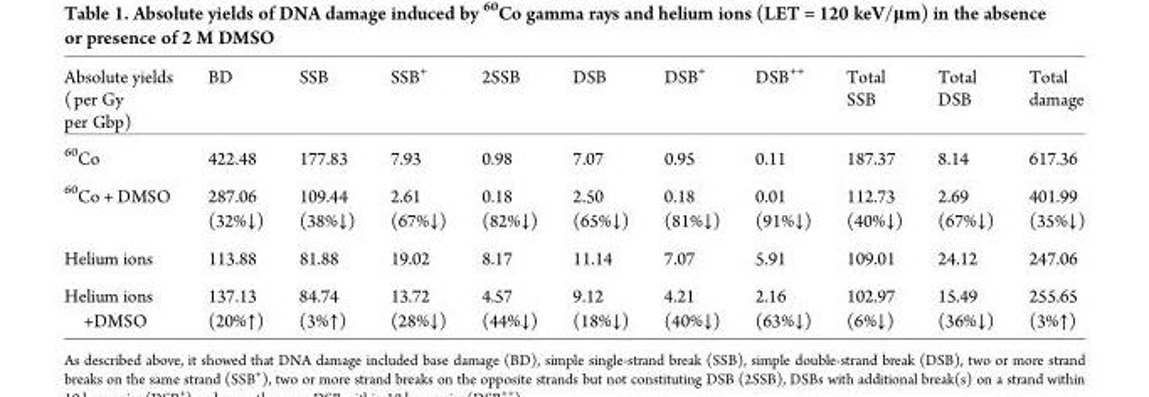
<table><thead><tr><td>Absolute yields (per Gy per Gbp)</td><td>BD</td><td>SSB</td><td>SSB<sup>+</sup></td><td>2SSB</td><td>DSB</td><td>DSB<sup>+</sup></td><td>DSB<sup>++</sup></td><td>Total SSB</td><td>Total DSB</td><td>Total damage</td></tr></thead><tbody><tr><td><sup>60</sup>Co</td><td>422.48</td><td>177.83</td><td>7.93</td><td>0.98</td><td>7.07</td><td>0.95</td><td>0.11</td><td>187.37</td><td>8.14</td><td>617.36</td></tr><tr><td><sup>60</sup>Co + DMSO</td><td>287.06 (32%↓)</td><td>109.44 (38%↓)</td><td>2.61 (67%↓)</td><td>0.18 (82%↓)</td><td>2.50 (65%↓)</td><td>0.18 (81%↓)</td><td>0.01 (91%↓)</td><td>112.73 (40%↓)</td><td>2.69 (67%↓)</td><td>401.99 (35%↓)</td></tr><tr><td>Helium ions</td><td>113.88</td><td>81.88</td><td>19.02</td><td>8.17</td><td>11.14</td><td>7.07</td><td>5.91</td><td>109.01</td><td>24.12</td><td>247.06</td></tr><tr><td>Helium ions +DMSO</td><td>137.13 (20%↑)</td><td>84.74 (3%↑)</td><td>13.72 (28%↓)</td><td>4.57 (44%↓)</td><td>9.12 (18%↓)</td><td>4.21 (40%↓)</td><td>2.16 (63%↓)</td><td>102.97 (6%↓)</td><td>15.49 (36%↓)</td><td>255.65 (3%↑)</td></tr></tbody></table>